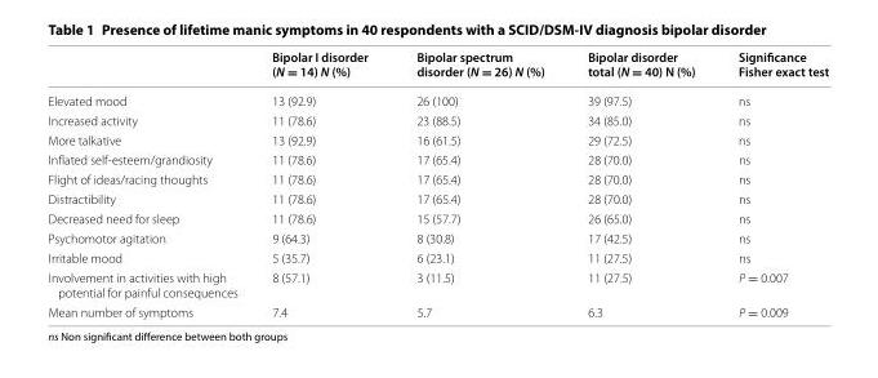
<table><thead><tr><td></td><td>Bipolar I disorder (N = 14) N (%)</td><td>Bipolar spectrum disorder (N = 26) N (%)</td><td>Bipolar disorder total (N = 40) N (%)</td><td>Significance Fisher exact test</td></tr></thead><tbody><tr><td>Elevated mood</td><td>13 (92.9)</td><td>26 (100)</td><td>39 (97.5)</td><td>ns</td></tr><tr><td>Increased activity</td><td>11 (78.6)</td><td>23 (88.5)</td><td>34 (85.0)</td><td>ns</td></tr><tr><td>More talkative</td><td>13 (92.9)</td><td>16 (61.5)</td><td>29 (72.5)</td><td>ns</td></tr><tr><td>Inflated self-esteem/grandiosity</td><td>11 (78.6)</td><td>17 (65.4)</td><td>28 (70.0)</td><td>ns</td></tr><tr><td>Flight of ideas/racing thoughts</td><td>11 (78.6)</td><td>17 (65.4)</td><td>28 (70.0)</td><td>ns</td></tr><tr><td>Distractibility</td><td>11 (78.6)</td><td>17 (65.4)</td><td>28 (70.0)</td><td>ns</td></tr><tr><td>Decreased need for sleep</td><td>11 (78.6)</td><td>15 (57.7)</td><td>26 (65.0)</td><td>ns</td></tr><tr><td>Psychomotor agitation</td><td>9 (64.3)</td><td>8 (30.8)</td><td>17 (42.5)</td><td>ns</td></tr><tr><td>Irritable mood</td><td>5 (35.7)</td><td>6 (23.1)</td><td>11 (27.5)</td><td>ns</td></tr><tr><td>Involvement in activities with high potential for painful consequences</td><td>8 (57.1)</td><td>3 (11.5)</td><td>11 (27.5)</td><td>P = 0.007</td></tr><tr><td>Mean number of symptoms</td><td>7.4</td><td>5.7</td><td>6.3</td><td>P = 0.009</td></tr></tbody></table>